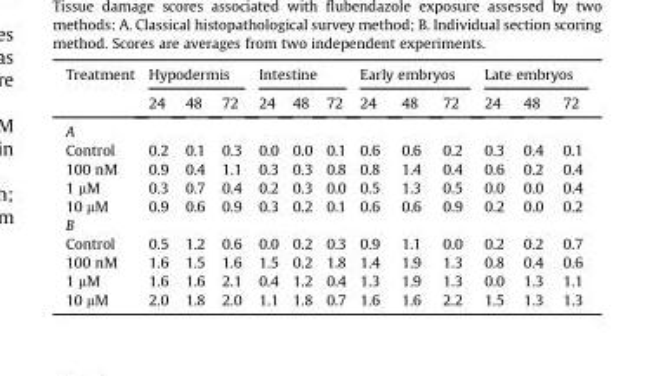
<table><thead><tr><td rowspan="2">Treatment</td><td colspan="3">Hypodermis</td><td colspan="3">Intestine</td><td colspan="3">Early embryos</td><td colspan="3">Late embryos</td></tr><tr><td>24</td><td>48</td><td>72</td><td>24</td><td>48</td><td>72</td><td>24</td><td>48</td><td>72</td><td>24</td><td>48</td><td>72</td></tr></thead><tbody><tr><td colspan="13">A</td></tr><tr><td>Control</td><td>0.2</td><td>0.1</td><td>0.3</td><td>0.0</td><td>0.0</td><td>0.1</td><td>0.6</td><td>0.6</td><td>0.2</td><td>0.3</td><td>0.4</td><td>0.1</td></tr><tr><td>100 nM</td><td>0.9</td><td>0.4</td><td>1.1</td><td>0.3</td><td>0.3</td><td>0.8</td><td>0.8</td><td>1.4</td><td>0.4</td><td>0.6</td><td>0.2</td><td>0.4</td></tr><tr><td>1 μM</td><td>0.3</td><td>0.7</td><td>0.4</td><td>0.2</td><td>0.3</td><td>0.0</td><td>0.5</td><td>1.3</td><td>0.5</td><td>0.0</td><td>0.0</td><td>0.4</td></tr><tr><td>10 μM</td><td>0.9</td><td>0.6</td><td>0.9</td><td>0.3</td><td>0.2</td><td>0.1</td><td>0.6</td><td>0.6</td><td>0.9</td><td>0.2</td><td>0.0</td><td>0.2</td></tr><tr><td colspan="13">B</td></tr><tr><td>Control</td><td>0.5</td><td>1.2</td><td>0.6</td><td>0.0</td><td>0.2</td><td>0.3</td><td>0.9</td><td>1.1</td><td>0.0</td><td>0.2</td><td>0.2</td><td>0.7</td></tr><tr><td>100 nM</td><td>1.6</td><td>1.5</td><td>1.6</td><td>1.5</td><td>0.2</td><td>1.8</td><td>1.4</td><td>1.9</td><td>1.3</td><td>0.8</td><td>0.4</td><td>0.6</td></tr><tr><td>1 μM</td><td>1.6</td><td>1.6</td><td>2.1</td><td>0.4</td><td>1.2</td><td>0.4</td><td>1.3</td><td>1.9</td><td>1.3</td><td>0.0</td><td>1.3</td><td>1.1</td></tr><tr><td>10 μM</td><td>2.0</td><td>1.8</td><td>2.0</td><td>1.1</td><td>1.8</td><td>0.7</td><td>1.6</td><td>1.6</td><td>2.2</td><td>1.5</td><td>1.3</td><td>1.3</td></tr></tbody></table>